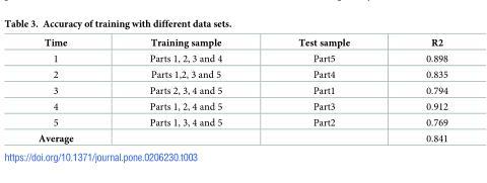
<table><thead><tr><td>Time</td><td>Training sample</td><td>Test sample</td><td>R2</td></tr></thead><tbody><tr><td>1</td><td>Parts 1, 2, 3 and 4</td><td>Part5</td><td>0.898</td></tr><tr><td>2</td><td>Parts 1,2, 3 and 5</td><td>Part4</td><td>0.835</td></tr><tr><td>3</td><td>Parts 2, 3, 4 and 5</td><td>Part1</td><td>0.794</td></tr><tr><td>4</td><td>Parts 1, 2, 4 and 5</td><td>Part3</td><td>0.912</td></tr><tr><td>5</td><td>Parts 1, 3, 4 and 5</td><td>Part2</td><td>0.769</td></tr><tr><td>Average</td><td></td><td></td><td>0.841</td></tr></tbody></table>